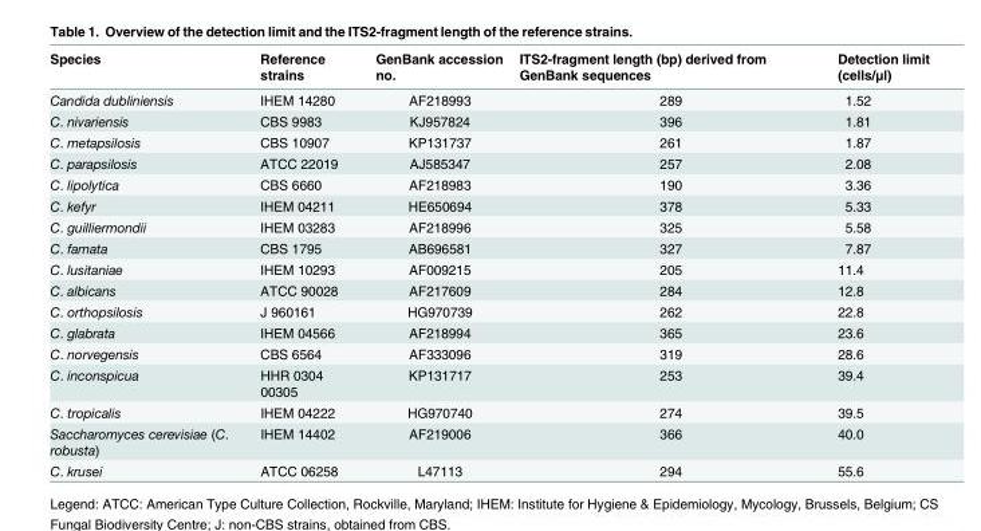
<table><thead><tr><td>Species</td><td>Reference strains</td><td>GenBank accession no.</td><td>ITS2-fragment length (bp) derived from GenBank sequences</td><td>Detection limit (cells/μl)</td></tr></thead><tbody><tr><td>Candida dubliniensis</td><td>IHEM 14280</td><td>AF218993</td><td>289</td><td>1.52</td></tr><tr><td>C. nivariensis</td><td>CBS 9983</td><td>KJ957824</td><td>396</td><td>1.81</td></tr><tr><td>C. metapsilosis</td><td>CBS 10907</td><td>KP131737</td><td>261</td><td>1.87</td></tr><tr><td>C. parapsilosis</td><td>ATCC 22019</td><td>AJ585347</td><td>257</td><td>2.08</td></tr><tr><td>C. lipolytica</td><td>CBS 6660</td><td>AF218983</td><td>190</td><td>3.36</td></tr><tr><td>C. kefyr</td><td>IHEM 04211</td><td>HE650694</td><td>378</td><td>5.33</td></tr><tr><td>C. guilliermondii</td><td>IHEM 03283</td><td>AF218996</td><td>325</td><td>5.58</td></tr><tr><td>C. famata</td><td>CBS 1795</td><td>AB696581</td><td>327</td><td>7.87</td></tr><tr><td>C. lusitaniae</td><td>IHEM 10293</td><td>AF009215</td><td>205</td><td>11.4</td></tr><tr><td>C. albicans</td><td>ATCC 90028</td><td>AF217609</td><td>284</td><td>12.8</td></tr><tr><td>C. orthopsilosis</td><td>J 960161</td><td>HG970739</td><td>262</td><td>22.8</td></tr><tr><td>C. glabrata</td><td>IHEM 04566</td><td>AF218994</td><td>365</td><td>23.6</td></tr><tr><td>C. norvegensis</td><td>CBS 6564</td><td>AF333096</td><td>319</td><td>28.6</td></tr><tr><td>C. inconspicua</td><td>HHR 0304 00305</td><td>KP131717</td><td>253</td><td>39.4</td></tr><tr><td>C. tropicalis</td><td>IHEM 04222</td><td>HG970740</td><td>274</td><td>39.5</td></tr><tr><td>Saccharomyces cerevisiae (C. robusta)</td><td>IHEM 14402</td><td>AF219006</td><td>366</td><td>40.0</td></tr><tr><td>C. krusei</td><td>ATCC 06258</td><td>L47113</td><td>294</td><td>55.6</td></tr></tbody></table>